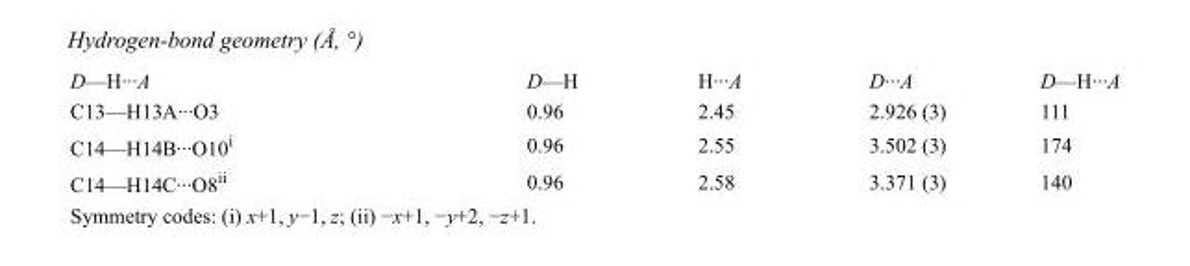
<table><tbody><tr><td>D—H···A</td><td>D—H</td><td>H···A</td><td>D···A</td><td>D—H···A</td></tr><tr><td>C13—H13A···O3</td><td>0.96</td><td>2.45</td><td>2.926 (3)</td><td>111</td></tr><tr><td>C14—H14B···O10<sup>i</sup></td><td>0.96</td><td>2.55</td><td>3.502 (3)</td><td>174</td></tr><tr><td>C14—H14C···O8<sup>ii</sup></td><td>0.96</td><td>2.58</td><td>3.371 (3)</td><td>140</td></tr></tbody></table>